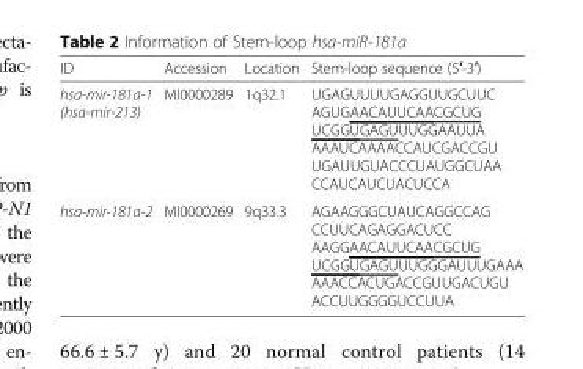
<table><thead><tr><td>ID</td><td>Accession</td><td>Location</td><td>Stem-loop sequence (5′-3′)</td></tr></thead><tbody><tr><td>hsa-mir-181a-1 (hsa-mir-213)</td><td>MI0000289</td><td>1q32.1</td><td>UGAGUUUUGAGGUUGCUUC AGUGAACAUUCAACGCUG UCGGUGAGUUUGGAAUUA AAAUCAAAACCAUCGACCGU UGAUUGUACCCUAUGGCUAA CCAUCAUCUACUCCA</td></tr><tr><td>hsa-mir-181a-2</td><td>MI0000269</td><td>9q33.3</td><td>AGAAGGGCUAUCAGGCCAG CCUUCAGAGGACUCC AAGGAACAUUCAACGCUG UCGGUGAGUUUGGGAUUUGAAA AAACCACUGACCGUUGACUGU ACCUUGGGGUCCUUA</td></tr></tbody></table>